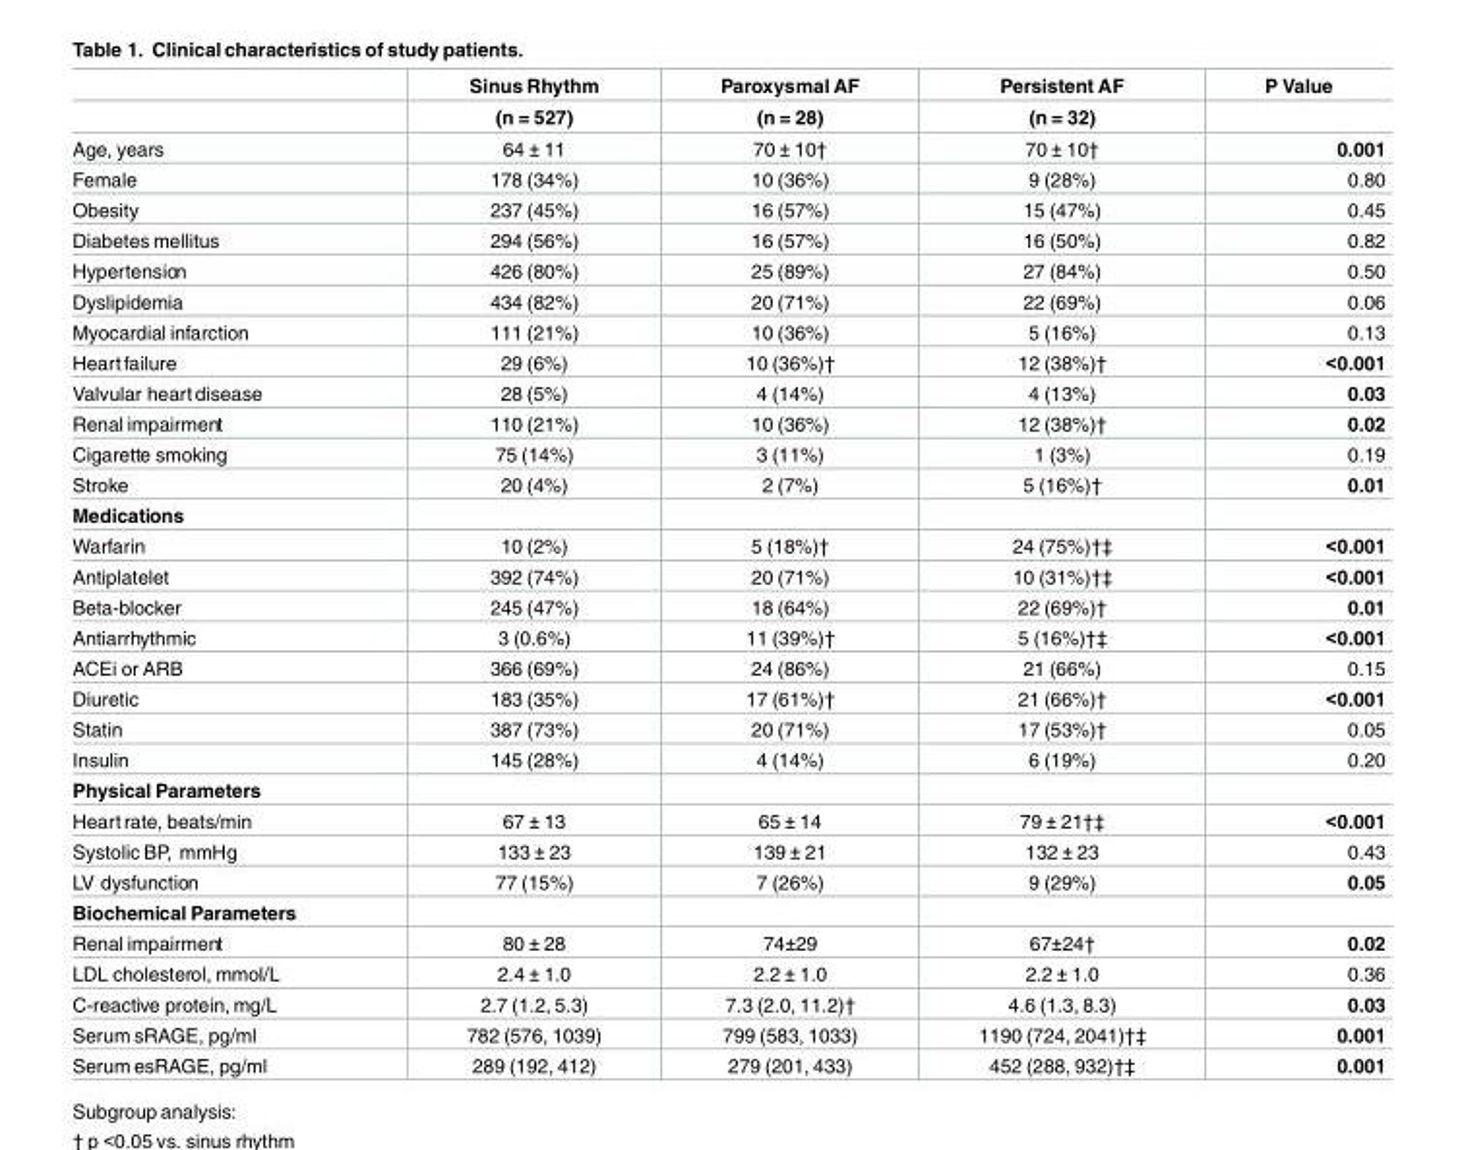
<table><thead><tr><td rowspan="2"></td><td rowspan="2">Sinus Rhythm (n = 527)</td><td rowspan="2">Paroxysmal AF (n = 28)</td><td rowspan="2">Persistent AF (n = 32)</td><td rowspan="2">P Value</td></tr><tr></tr></thead><tbody><tr><td>Age, years</td><td>64 ± 11</td><td>70 ± 10†</td><td>70 ± 10†</td><td>0.001</td></tr><tr><td>Female</td><td>178 (34%)</td><td>10 (36%)</td><td>9 (28%)</td><td>0.80</td></tr><tr><td>Obesity</td><td>237 (45%)</td><td>16 (57%)</td><td>15 (47%)</td><td>0.45</td></tr><tr><td>Diabetes mellitus</td><td>294 (56%)</td><td>16 (57%)</td><td>16 (50%)</td><td>0.82</td></tr><tr><td>Hypertension</td><td>426 (80%)</td><td>25 (89%)</td><td>27 (84%)</td><td>0.50</td></tr><tr><td>Dyslipidemia</td><td>434 (82%)</td><td>20 (71%)</td><td>22 (69%)</td><td>0.06</td></tr><tr><td>Myocardial infarction</td><td>111 (21%)</td><td>10 (36%)</td><td>5 (16%)</td><td>0.13</td></tr><tr><td>Heart failure</td><td>29 (6%)</td><td>10 (36%)†</td><td>12 (38%)†</td><td>&lt;0.001</td></tr><tr><td>Valvular heartdisease</td><td>28 (5%)</td><td>4 (14%)</td><td>4 (13%)</td><td>0.03</td></tr><tr><td>Renal impairment</td><td>110 (21%)</td><td>10 (36%)</td><td>12 (38%)†</td><td>0.02</td></tr><tr><td>Cigarette smoking</td><td>75 (14%)</td><td>3 (11%)</td><td>1 (3%)</td><td>0.19</td></tr><tr><td>Stroke</td><td>20 (4%)</td><td>2 (7%)</td><td>5 (16%)†</td><td>0.01</td></tr><tr><td colspan="5">Medications</td></tr><tr><td>Warfarin</td><td>10 (2%)</td><td>5 (18%)†</td><td>24 (75%)†‡</td><td>&lt;0.001</td></tr><tr><td>Antiplatelet</td><td>392 (74%)</td><td>20 (71%)</td><td>10 (31%)†‡</td><td>&lt;0.001</td></tr><tr><td>Beta-blocker</td><td>245 (47%)</td><td>18 (64%)</td><td>22 (69%)†</td><td>0.01</td></tr><tr><td>Antiarrhythmic</td><td>3 (0.6%)</td><td>11 (39%)†</td><td>5 (16%)†‡</td><td>&lt;0.001</td></tr><tr><td>ACEi or ARB</td><td>366 (69%)</td><td>24 (86%)</td><td>21 (66%)</td><td>0.15</td></tr><tr><td>Diuretic</td><td>183 (35%)</td><td>17 (61%)†</td><td>21 (66%)†</td><td>&lt;0.001</td></tr><tr><td>Statin</td><td>387 (73%)</td><td>20 (71%)</td><td>17 (53%)†</td><td>0.05</td></tr><tr><td>Insulin</td><td>145 (28%)</td><td>4 (14%)</td><td>6 (19%)</td><td>0.20</td></tr><tr><td colspan="5">Physical Parameters</td></tr><tr><td>Heart rate, beats/min</td><td>67 ± 13</td><td>65 ± 14</td><td>79 ± 21†‡</td><td>&lt;0.001</td></tr><tr><td>Systolic BP, mmHg</td><td>133 ± 23</td><td>139 ± 21</td><td>132 ± 23</td><td>0.43</td></tr><tr><td>LV dysfunction</td><td>77 (15%)</td><td>7 (26%)</td><td>9 (29%)</td><td>0.05</td></tr><tr><td colspan="5">Biochemical Parameters</td></tr><tr><td>Renal impairment</td><td>80 ± 28</td><td>74±29</td><td>67±24†</td><td>0.02</td></tr><tr><td>LDL cholesterol, mmol/L</td><td>2.4 ± 1.0</td><td>2.2 ± 1.0</td><td>2.2 ± 1.0</td><td>0.36</td></tr><tr><td>C-reactive protein, mg/L</td><td>2.7 (1.2, 5.3)</td><td>7.3 (2.0, 11.2)†</td><td>4.6 (1.3, 8.3)</td><td>0.03</td></tr><tr><td>Serum sRAGE, pg/ml</td><td>782 (576, 1039)</td><td>799 (583, 1033)</td><td>1190 (724, 2041)†‡</td><td>0.001</td></tr><tr><td>Serum esRAGE, pg/ml</td><td>289 (192, 412)</td><td>279 (201, 433)</td><td>452 (288, 932)†‡</td><td>0.001</td></tr></tbody></table>